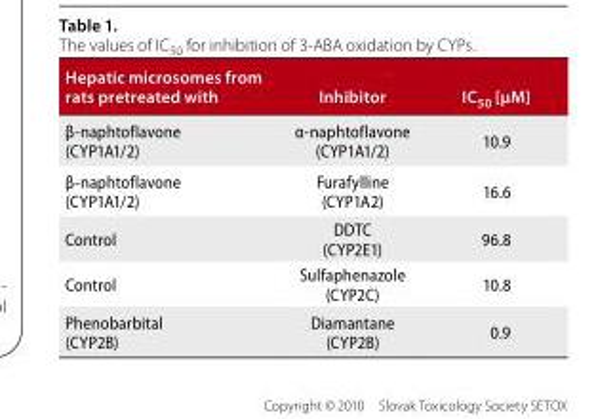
<table><thead><tr><td>Hepatic microsomes from rats pretreated with</td><td>inhibitor</td><td>ic<sub>50</sub> [μM]</td></tr></thead><tbody><tr><td>β-naphtoflavone (CYP1A1/2)</td><td>α-naphtoflavone (CYP1A1/2)</td><td>10.9</td></tr><tr><td>β-naphtoflavone (CYP1A1/2)</td><td>Furafylline (CYP1A2)</td><td>16.6</td></tr><tr><td>Control</td><td>DDTC (CYP2E1)</td><td>96.8</td></tr><tr><td>Control</td><td>Sulfaphenazole (CYP2C)</td><td>10.8</td></tr><tr><td>Phenobarbital (CYP2B)</td><td>Diamantane (CYP2B)</td><td>0.9</td></tr></tbody></table>